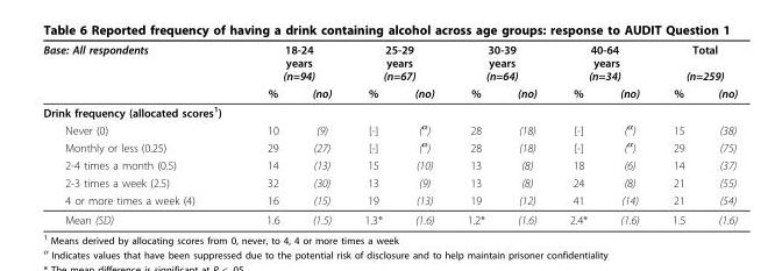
<table><thead><tr><td rowspan="2">Base: All respondents</td><td colspan="2">18-24 years (n=94)</td><td colspan="2">25-29 years (n=67)</td><td colspan="2">30-39 years (n=64)</td><td colspan="2">40-64 years (n=34)</td><td colspan="2">Total (n=259)</td></tr><tr><td>%</td><td>(no)</td><td>%</td><td>(no)</td><td>%</td><td>(no)</td><td>%</td><td>(no)</td><td>%</td><td>(no)</td></tr></thead><tbody><tr><td colspan="11">Drink frequency (allocated scores<sup>1</sup>)</td></tr><tr><td>Never (0)</td><td>10</td><td>(9)</td><td>[-]</td><td>(<sup>α</sup>)</td><td>28</td><td>(18)</td><td>[-]</td><td>(<sup>α</sup>)</td><td>15</td><td>(38)</td></tr><tr><td>Monthly or less (0.25)</td><td>29</td><td>(27)</td><td>[-]</td><td>(<sup>α</sup>)</td><td>28</td><td>(18)</td><td>[-]</td><td>(<sup>α</sup>)</td><td>29</td><td>(75)</td></tr><tr><td>2-4 times a month (0.5)</td><td>14</td><td>(13)</td><td>15</td><td>(10)</td><td>13</td><td>(8)</td><td>18</td><td>(6)</td><td>14</td><td>(37)</td></tr><tr><td>2-3 times a week (2.5)</td><td>32</td><td>(30)</td><td>13</td><td>(9)</td><td>13</td><td>(8)</td><td>24</td><td>(8)</td><td>21</td><td>(55)</td></tr><tr><td>4 or more times a week (4)</td><td>16</td><td>(15)</td><td>19</td><td>(13)</td><td>19</td><td>(12)</td><td>41</td><td>(14)</td><td>21</td><td>(54)</td></tr><tr><td>Mean (SD)</td><td>1.6</td><td>(1.5)</td><td>1.3*</td><td>(1.6)</td><td>1.2*</td><td>(1.6)</td><td>2.4*</td><td>(1.6)</td><td>1.5</td><td>(1.6)</td></tr></tbody></table>